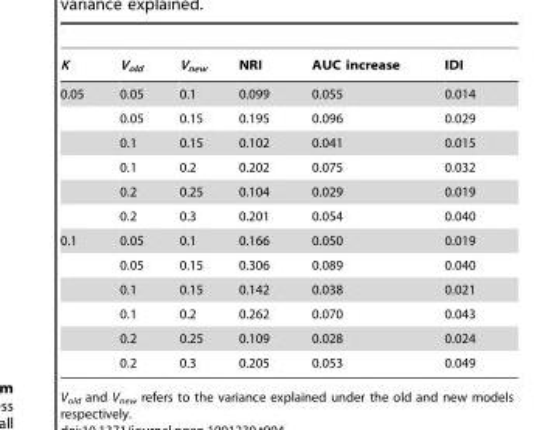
<table><thead><tr><td>K</td><td>V<sub>old</sub></td><td>V<sub>new</sub></td><td>NRI</td><td>AUC increase</td><td>IDI</td></tr></thead><tbody><tr><td rowspan="6">0.05</td><td>0.05</td><td>0.1</td><td>0.099</td><td>0.055</td><td>0.014</td></tr><tr><td>0.05</td><td>0.15</td><td>0.195</td><td>0.096</td><td>0.029</td></tr><tr><td>0.1</td><td>0.15</td><td>0.102</td><td>0.041</td><td>0.015</td></tr><tr><td>0.1</td><td>0.2</td><td>0.202</td><td>0.075</td><td>0.032</td></tr><tr><td>0.2</td><td>0.25</td><td>0.104</td><td>0.029</td><td>0.019</td></tr><tr><td>0.2</td><td>0.3</td><td>0.201</td><td>0.054</td><td>0.040</td></tr><tr><td rowspan="6">0.1</td><td>0.05</td><td>0.1</td><td>0.166</td><td>0.050</td><td>0.019</td></tr><tr><td>0.05</td><td>0.15</td><td>0.306</td><td>0.089</td><td>0.040</td></tr><tr><td>0.1</td><td>0.15</td><td>0.142</td><td>0.038</td><td>0.021</td></tr><tr><td>0.1</td><td>0.2</td><td>0.262</td><td>0.070</td><td>0.043</td></tr><tr><td>0.2</td><td>0.25</td><td>0.109</td><td>0.028</td><td>0.024</td></tr><tr><td>0.2</td><td>0.3</td><td>0.205</td><td>0.053</td><td>0.049</td></tr></tbody></table>